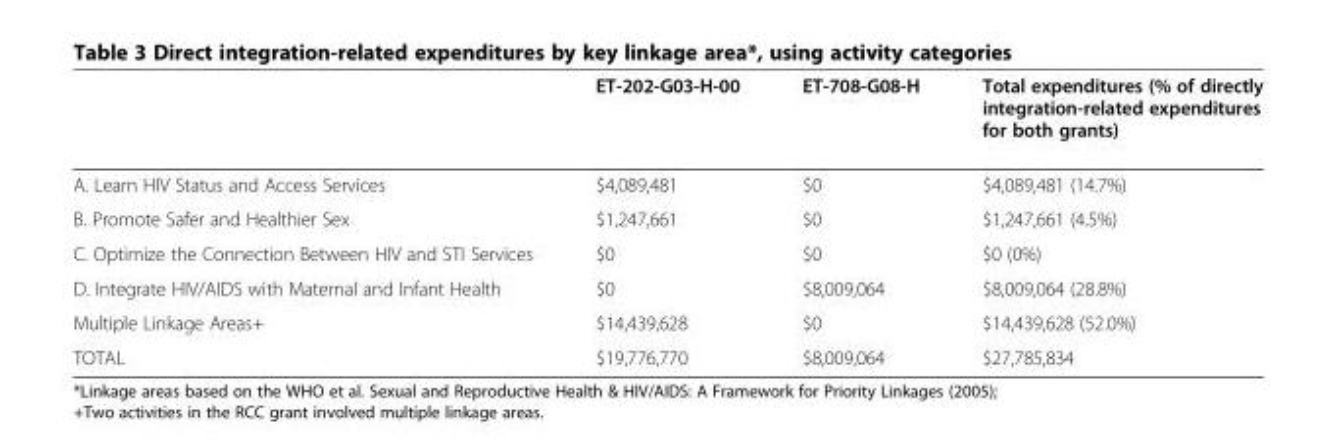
<table><thead><tr><td></td><td>ET-202-G03-H-00</td><td>ET-708-G08-H</td><td>Total expenditures (% of directly integration-related expenditures for both grants)</td></tr></thead><tbody><tr><td>A. Learn HIV Status and Access Services</td><td>$4,089,481</td><td>$0</td><td>$4,089,481 (14.7%)</td></tr><tr><td>B. Promote Safer and Healthier Sex</td><td>$1,247,661</td><td>$0</td><td>$1,247,661 (4.5%)</td></tr><tr><td>C. Optimize the Connection Between HIV and STI Services</td><td>$0</td><td>$0</td><td>$0 (0%)</td></tr><tr><td>D. Integrate HIV/AIDS with Maternal and Infant Health</td><td>$0</td><td>$8,009,064</td><td>$8,009,064 (28.8%)</td></tr><tr><td>Multiple Linkage Areas+</td><td>$14,439,628</td><td>$0</td><td>$14,439,628 (52.0%)</td></tr><tr><td>TOTAL</td><td>$19,776,770</td><td>$8,009,064</td><td>$27,785,834</td></tr></tbody></table>